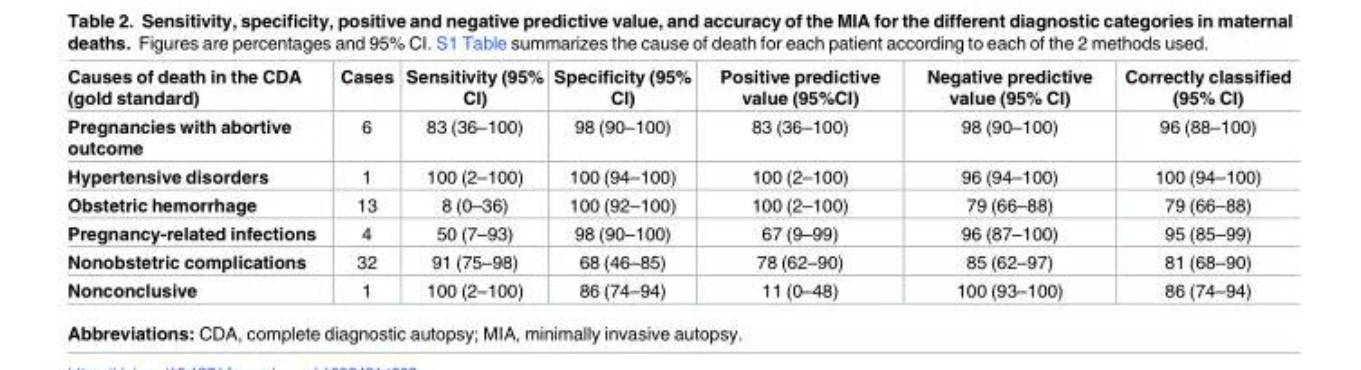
<table><thead><tr><td>Causes of death in the CDA (gold standard)</td><td>Cases</td><td>Sensitivity (95% CI)</td><td>Specificity (95% CI)</td><td>Positive predictive value (95%CI)</td><td>Negative predictive value (95% CI)</td><td>Correctly classified (95% CI)</td></tr></thead><tbody><tr><td>Pregnancies with abortive outcome</td><td>6</td><td>83 (36–100)</td><td>98 (90–100)</td><td>83 (36–100)</td><td>98 (90–100)</td><td>96 (88–100)</td></tr><tr><td>Hypertensive disorders</td><td>1</td><td>100 (2–100)</td><td>100 (94–100)</td><td>100 (2–100)</td><td>96 (94–100)</td><td>100 (94–100)</td></tr><tr><td>Obstetric hemorrhage</td><td>13</td><td>8 (0–36)</td><td>100 (92–100)</td><td>100 (2–100)</td><td>79 (66–88)</td><td>79 (66–88)</td></tr><tr><td>Pregnancy-related infections</td><td>4</td><td>50 (7–93)</td><td>98 (90–100)</td><td>67 (9–99)</td><td>96 (87–100)</td><td>95 (85–99)</td></tr><tr><td>Nonobstetric complications</td><td>32</td><td>91 (75–98)</td><td>68 (46–85)</td><td>78 (62–90)</td><td>85 (62–97)</td><td>81 (68–90)</td></tr><tr><td>Nonconclusive</td><td>1</td><td>100 (2–100)</td><td>86 (74–94)</td><td>11 (0–48)</td><td>100 (93–100)</td><td>86 (74–94)</td></tr></tbody></table>